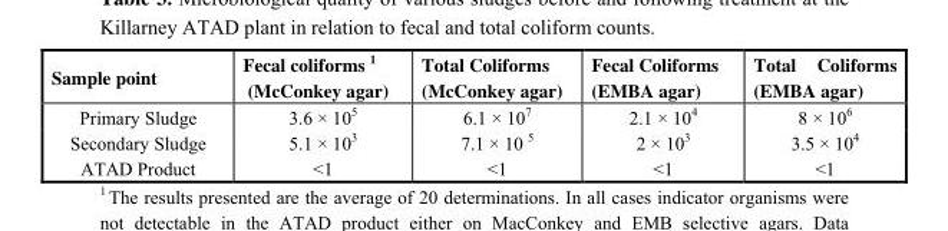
<table><thead><tr><td>Sample point</td><td>Fecal coliforms 1 (McConkey agar)</td><td>Total Coliforms (McConkey agar)</td><td>Fecal Coliforms (EMBA agar)</td><td>Total Coliforms (EMBA agar)</td></tr></thead><tbody><tr><td>Primary Sludge</td><td>3.6 × 10<sup>5</sup></td><td>6.1 × 10<sup>7</sup></td><td>2.1 × 10<sup>4</sup></td><td>8 × 10<sup>6</sup></td></tr><tr><td>Secondary Sludge</td><td>5.1 × 10<sup>3</sup></td><td>7.1 × 10 <sup>5</sup></td><td>2 × 10<sup>3</sup></td><td>3.5 × 10<sup>4</sup></td></tr><tr><td>ATAD Product</td><td>&lt;1</td><td>&lt;1</td><td>&lt;1</td><td>&lt;1</td></tr></tbody></table>